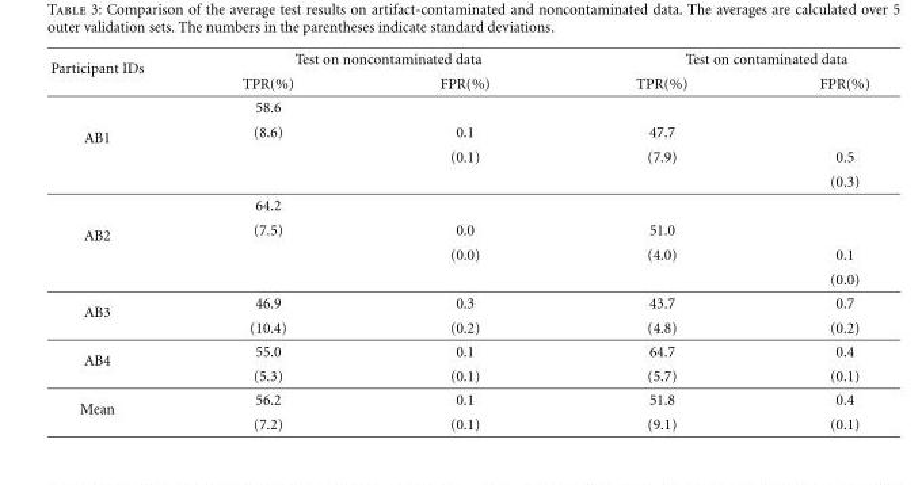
<table><thead><tr><td rowspan="2">Participant IDs</td><td colspan="2">Test on noncontaminated data</td><td colspan="2">Test on contaminated data</td></tr><tr><td>TPR(%)</td><td>FPR(%)</td><td>TPR(%)</td><td>FPR(%)</td></tr></thead><tbody><tr><td rowspan="4">AB1</td><td>58.6</td><td></td><td></td><td></td></tr><tr><td>(8.6)</td><td>0.1</td><td>47.7</td><td></td></tr><tr><td></td><td>(0.1)</td><td>(7.9)</td><td>0.5</td></tr><tr><td></td><td></td><td></td><td>(0.3)</td></tr><tr><td rowspan="4">AB2</td><td>64.2</td><td></td><td></td><td></td></tr><tr><td>(7.5)</td><td>0.0</td><td>51.0</td><td></td></tr><tr><td></td><td>(0.0)</td><td>(4.0)</td><td>0.1</td></tr><tr><td></td><td></td><td></td><td>(0.0)</td></tr><tr><td rowspan="2">AB3</td><td>46.9</td><td>0.3</td><td>43.7</td><td>0.7</td></tr><tr><td>(10.4)</td><td>(0.2)</td><td>(4.8)</td><td>(0.2)</td></tr><tr><td rowspan="2">AB4</td><td>55.0</td><td>0.1</td><td>64.7</td><td>0.4</td></tr><tr><td>(5.3)</td><td>(0.1)</td><td>(5.7)</td><td>(0.1)</td></tr><tr><td rowspan="2">Mean</td><td>56.2</td><td>0.1</td><td>51.8</td><td>0.4</td></tr><tr><td>(7.2)</td><td>(0.1)</td><td>(9.1)</td><td>(0.1)</td></tr></tbody></table>